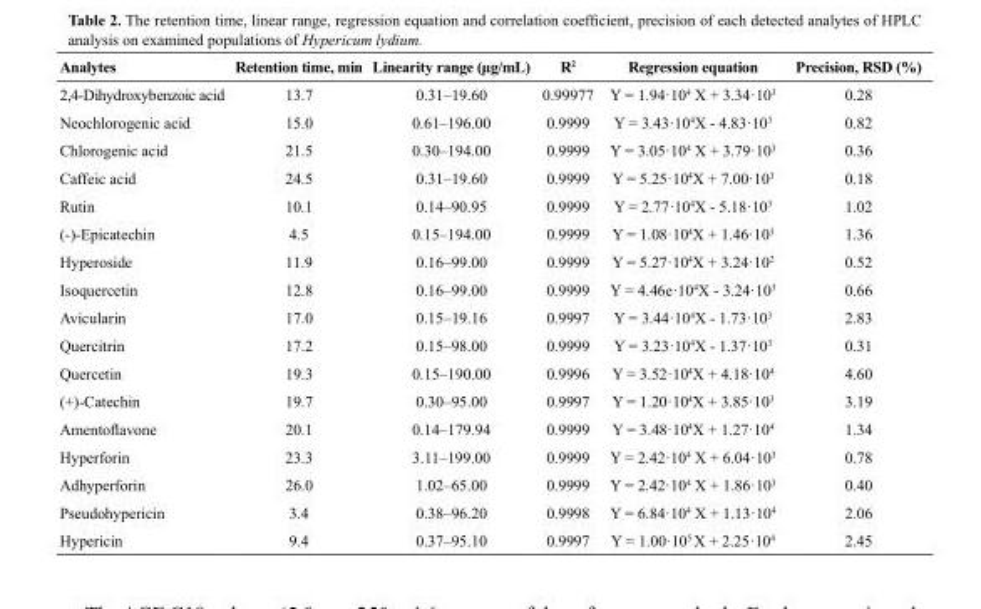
<table><thead><tr><td>Analytes</td><td>Retention time, min</td><td>Linearity range (μg/mL)</td><td>R<sup>2</sup></td><td>Regression equation</td><td>Precision, RSD (%)</td></tr></thead><tbody><tr><td>2,4-Dihydroxybenzoic acid</td><td>13.7</td><td>0.31–19.60</td><td>0.99977</td><td>Y = 1.94·10<sup>4</sup> X + 3.34·10<sup>3</sup></td><td>0.28</td></tr><tr><td>Neochlorogenic acid</td><td>15.0</td><td>0.61–196.00</td><td>0.9999</td><td>Y = 3.43·10<sup>4</sup>X - 4.83·10<sup>3</sup></td><td>0.82</td></tr><tr><td>Chlorogenic acid</td><td>21.5</td><td>0.30–194.00</td><td>0.9999</td><td>Y = 3.05·10<sup>4</sup> X + 3.79·10<sup>3</sup></td><td>0.36</td></tr><tr><td>Caffeic acid</td><td>24.5</td><td>0.31–19.60</td><td>0.9999</td><td>Y = 5.25·10<sup>4</sup>X + 7.00·10<sup>3</sup></td><td>0.18</td></tr><tr><td>Rutin</td><td>10.1</td><td>0.14–90.95</td><td>0.9999</td><td>Y = 2.77·10<sup>4</sup>X - 5.18·10<sup>3</sup></td><td>1.02</td></tr><tr><td>(-)-Epicatechin</td><td>4.5</td><td>0.15–194.00</td><td>0.9999</td><td>Y = 1.08·10<sup>4</sup>X + 1.46·10<sup>3</sup></td><td>1.36</td></tr><tr><td>Hyperoside</td><td>11.9</td><td>0.16–99.00</td><td>0.9999</td><td>Y = 5.27·10<sup>4</sup>X + 3.24·10<sup>2</sup></td><td>0.52</td></tr><tr><td>Isoquercetin</td><td>12.8</td><td>0.16–99.00</td><td>0.9999</td><td>Y = 4.46e·10<sup>4</sup>X - 3.24·10<sup>3</sup></td><td>0.66</td></tr><tr><td>Avicularin</td><td>17.0</td><td>0.15–19.16</td><td>0.9997</td><td>Y = 3.44·10<sup>4</sup>X - 1.73·10<sup>3</sup></td><td>2.83</td></tr><tr><td>Quercitrin</td><td>17.2</td><td>0.15–98.00</td><td>0.9999</td><td>Y = 3.23·10<sup>4</sup>X - 1.37·10<sup>3</sup></td><td>0.31</td></tr><tr><td>Quercetin</td><td>19.3</td><td>0.15–190.00</td><td>0.9996</td><td>Y = 3.52·10<sup>4</sup>X + 4.18·10<sup>4</sup></td><td>4.60</td></tr><tr><td>(+)-Catechin</td><td>19.7</td><td>0.30–95.00</td><td>0.9997</td><td>Y = 1.20·10<sup>4</sup>X + 3.85·10<sup>3</sup></td><td>3.19</td></tr><tr><td>Amentoflavone</td><td>20.1</td><td>0.14–179.94</td><td>0.9999</td><td>Y = 3.48·10<sup>4</sup>X + 1.27·10<sup>4</sup></td><td>1.34</td></tr><tr><td>Hyperforin</td><td>23.3</td><td>3.11–199.00</td><td>0.9999</td><td>Y = 2.42·10<sup>4</sup> X + 6.04·10<sup>3</sup></td><td>0.78</td></tr><tr><td>Adhyperforin</td><td>26.0</td><td>1.02–65.00</td><td>0.9999</td><td>Y = 2.42·10<sup>4</sup> X + 1.86·10<sup>3</sup></td><td>0.40</td></tr><tr><td>Pseudohypericin</td><td>3.4</td><td>0.38–96.20</td><td>0.9998</td><td>Y = 6.84·10<sup>4</sup> X + 1.13·10<sup>4</sup></td><td>2.06</td></tr><tr><td>Hypericin</td><td>9.4</td><td>0.37–95.10</td><td>0.9997</td><td>Y = 1.00·10<sup>5</sup> X + 2.25·10<sup>4</sup></td><td>2.45</td></tr></tbody></table>